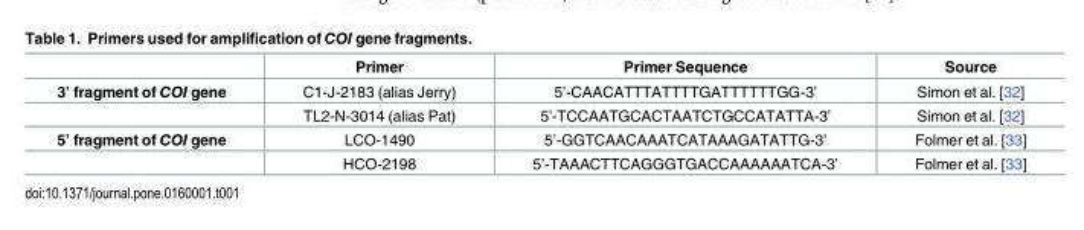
<table><thead><tr><td></td><td>Primer</td><td>Primer Sequence</td><td>Source</td></tr></thead><tbody><tr><td rowspan="2">3’ fragment of COI gene</td><td>C1-J-2183 (alias Jerry)</td><td>5’-CAACATTTATTTTGATTTTTTGG-3’</td><td>Simon et al. [32]</td></tr><tr><td>TL2-N-3014 (alias Pat)</td><td>5’-TCCAATGCACTAATCTGCCATATTA-3’</td><td>Simon et al. [32]</td></tr><tr><td rowspan="2">5’ fragment of COI gene</td><td>LCO-1490</td><td>5’-GGTCAACAAATCATAAAGATATTG-3’</td><td>Folmer et al. [33]</td></tr><tr><td>HCO-2198</td><td>5’-TAAACTTCAGGGTGACCAAAAAATCA-3’</td><td>Folmer et al. [33]</td></tr></tbody></table>